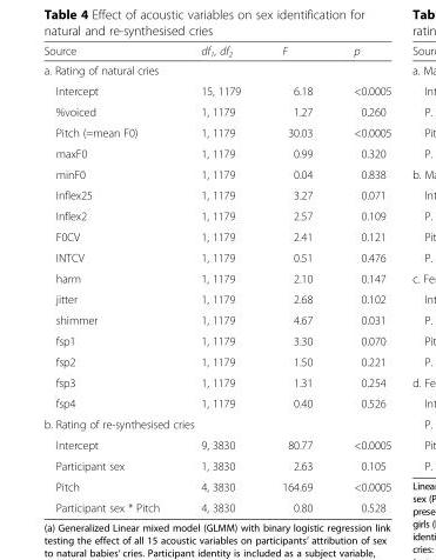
<table><thead><tr><td>Source</td><td>df<sub>1</sub>, df<sub>2</sub></td><td>F</td><td>p</td></tr></thead><tbody><tr><td colspan="4">a. Rating of natural cries</td></tr><tr><td>Intercept</td><td>15, 1179</td><td>6.18</td><td>&lt;0.0005</td></tr><tr><td>%voiced</td><td>1, 1179</td><td>1.27</td><td>0.260</td></tr><tr><td>Pitch (=mean F0)</td><td>1, 1179</td><td>30.03</td><td>&lt;0.0005</td></tr><tr><td>maxF0</td><td>1, 1179</td><td>0.99</td><td>0.320</td></tr><tr><td>minF0</td><td>1, 1179</td><td>0.04</td><td>0.838</td></tr><tr><td>Inflex25</td><td>1, 1179</td><td>3.27</td><td>0.071</td></tr><tr><td>Inflex2</td><td>1, 1179</td><td>2.57</td><td>0.109</td></tr><tr><td>F0CV</td><td>1, 1179</td><td>2.41</td><td>0.121</td></tr><tr><td>INTCV</td><td>1, 1179</td><td>0.51</td><td>0.476</td></tr><tr><td>harm</td><td>1, 1179</td><td>2.10</td><td>0.147</td></tr><tr><td>jitter</td><td>1, 1179</td><td>2.68</td><td>0.102</td></tr><tr><td>shimmer</td><td>1, 1179</td><td>4.67</td><td>0.031</td></tr><tr><td>fsp1</td><td>1, 1179</td><td>3.30</td><td>0.070</td></tr><tr><td>fsp2</td><td>1, 1179</td><td>1.50</td><td>0.221</td></tr><tr><td>fsp3</td><td>1, 1179</td><td>1.31</td><td>0.254</td></tr><tr><td>fsp4</td><td>1, 1179</td><td>0.40</td><td>0.526</td></tr><tr><td colspan="4">b. Rating of re-synthesised cries</td></tr><tr><td>Intercept</td><td>9, 3830</td><td>80.77</td><td>&lt;0.0005</td></tr><tr><td>Participant sex</td><td>1, 3830</td><td>2.63</td><td>0.105</td></tr><tr><td>Pitch</td><td>4, 3830</td><td>164.69</td><td>&lt;0.0005</td></tr><tr><td>Participant sex * Pitch</td><td>4, 3830</td><td>0.80</td><td>0.528</td></tr></tbody></table>